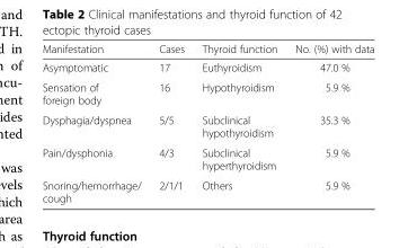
<table><thead><tr><td>Manifestation</td><td>Cases</td><td>Thyroid function</td><td>No. (%) with data</td></tr></thead><tbody><tr><td>Asymptomatic</td><td>17</td><td>Euthyroidism</td><td>47.0 %</td></tr><tr><td>Sensation of foreign body</td><td>16</td><td>Hypothyroidism</td><td>5.9 %</td></tr><tr><td>Dysphagia/dyspnea</td><td>5/5</td><td>Subclinical hypothyroidism</td><td>35.3 %</td></tr><tr><td>Pain/dysphonia</td><td>4/3</td><td>Subclinical hyperthyroidism</td><td>5.9 %</td></tr><tr><td>Snoring/hemorrhage/ cough</td><td>2/1/1</td><td>Others</td><td>5.9 %</td></tr></tbody></table>